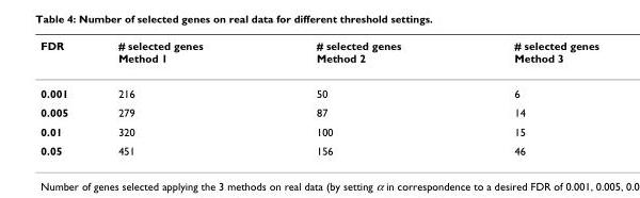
<table><thead><tr><td>FDR</td><td># selected genes Method 1</td><td># selected genes Method 2</td><td># selected genes Method 3</td></tr></thead><tbody><tr><td>0.001</td><td>216</td><td>50</td><td>6</td></tr><tr><td>0.005</td><td>279</td><td>87</td><td>14</td></tr><tr><td>0.01</td><td>320</td><td>100</td><td>15</td></tr><tr><td>0.05</td><td>451</td><td>156</td><td>46</td></tr></tbody></table>